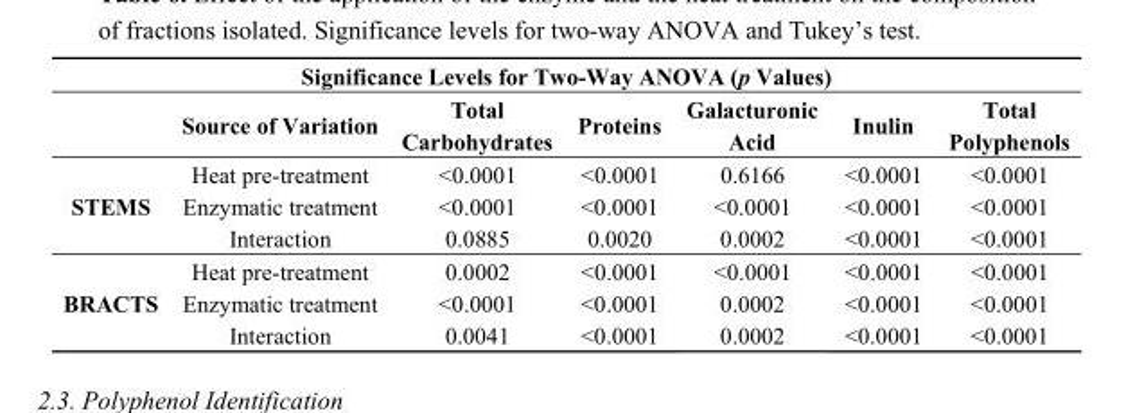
<table><thead><tr><td colspan="7">Significance Levels for Two-Way ANOVA (p Values)</td></tr><tr><td></td><td>Source of Variation</td><td>Total Carbohydrates</td><td>Proteins</td><td>Galacturonic Acid</td><td>Inulin</td><td>Total Polyphenols</td></tr></thead><tbody><tr><td rowspan="3">STEMS</td><td>Heat pre-treatment</td><td>&lt;0.0001</td><td>&lt;0.0001</td><td>0.6166</td><td>&lt;0.0001</td><td>&lt;0.0001</td></tr><tr><td>Enzymatic treatment</td><td>&lt;0.0001</td><td>&lt;0.0001</td><td>&lt;0.0001</td><td>&lt;0.0001</td><td>&lt;0.0001</td></tr><tr><td>Interaction</td><td>0.0885</td><td>0.0020</td><td>0.0002</td><td>&lt;0.0001</td><td>&lt;0.0001</td></tr><tr><td rowspan="3">BRACTS</td><td>Heat pre-treatment</td><td>0.0002</td><td>&lt;0.0001</td><td>&lt;0.0001</td><td>&lt;0.0001</td><td>&lt;0.0001</td></tr><tr><td>Enzymatic treatment</td><td>&lt;0.0001</td><td>&lt;0.0001</td><td>0.0002</td><td>&lt;0.0001</td><td>&lt;0.0001</td></tr><tr><td>Interaction</td><td>0.0041</td><td>&lt;0.0001</td><td>0.0002</td><td>&lt;0.0001</td><td>&lt;0.0001</td></tr></tbody></table>